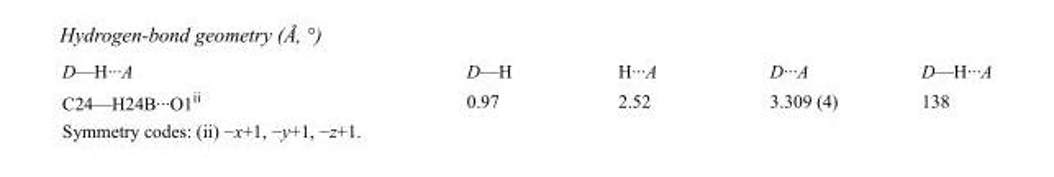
<table><tbody><tr><td>D—H···A</td><td>D—H</td><td>H···A</td><td>D···A</td><td>D—H···A</td></tr><tr><td>C24—H24B···O1<sup>ii</sup></td><td>0.97</td><td>2.52</td><td>3.309 (4)</td><td>138</td></tr></tbody></table>